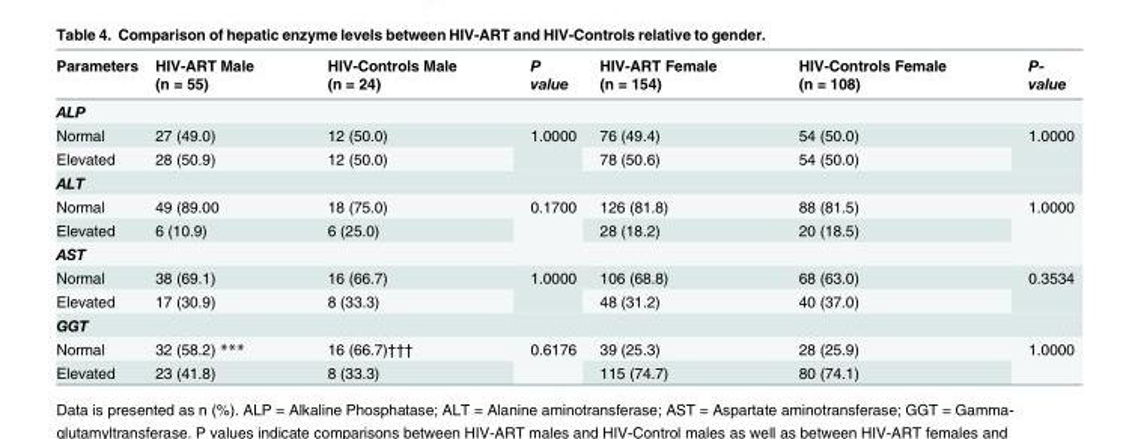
<table><thead><tr><td>Parameters</td><td>HIV-ART Male (n = 55)</td><td>HIV-Controls Male (n = 24)</td><td>P value</td><td>HIV-ART Female (n = 154)</td><td>HIV-Controls Female (n = 108)</td><td>P- value</td></tr></thead><tbody><tr><td colspan="7">ALP</td></tr><tr><td>Normal</td><td>27 (49.0)</td><td>12 (50.0)</td><td rowspan="2">1.0000</td><td>76 (49.4)</td><td>54 (50.0)</td><td rowspan="2">1.0000</td></tr><tr><td>Elevated</td><td>28 (50.9)</td><td>12 (50.0)</td><td>78 (50.6)</td><td>54 (50.0)</td></tr><tr><td colspan="7">ALT</td></tr><tr><td>Normal</td><td>49 (89.00</td><td>18 (75.0)</td><td rowspan="2">0.1700</td><td>126 (81.8)</td><td>88 (81.5)</td><td rowspan="2">1.0000</td></tr><tr><td>Elevated</td><td>6 (10.9)</td><td>6 (25.0)</td><td>28 (18.2)</td><td>20 (18.5)</td></tr><tr><td colspan="7">AST</td></tr><tr><td>Normal</td><td>38 (69.1)</td><td>16 (66.7)</td><td rowspan="2">1.0000</td><td>106 (68.8)</td><td>68 (63.0)</td><td rowspan="2">0.3534</td></tr><tr><td>Elevated</td><td>17 (30.9)</td><td>8 (33.3)</td><td>48 (31.2)</td><td>40 (37.0)</td></tr><tr><td colspan="7">GGT</td></tr><tr><td>Normal</td><td>32 (58.2) ***</td><td>16 (66.7)†††</td><td rowspan="2">0.6176</td><td>39 (25.3)</td><td>28 (25.9)</td><td rowspan="2">1.0000</td></tr><tr><td>Elevated</td><td>23 (41.8)</td><td>8 (33.3)</td><td>115 (74.7)</td><td>80 (74.1)</td></tr></tbody></table>